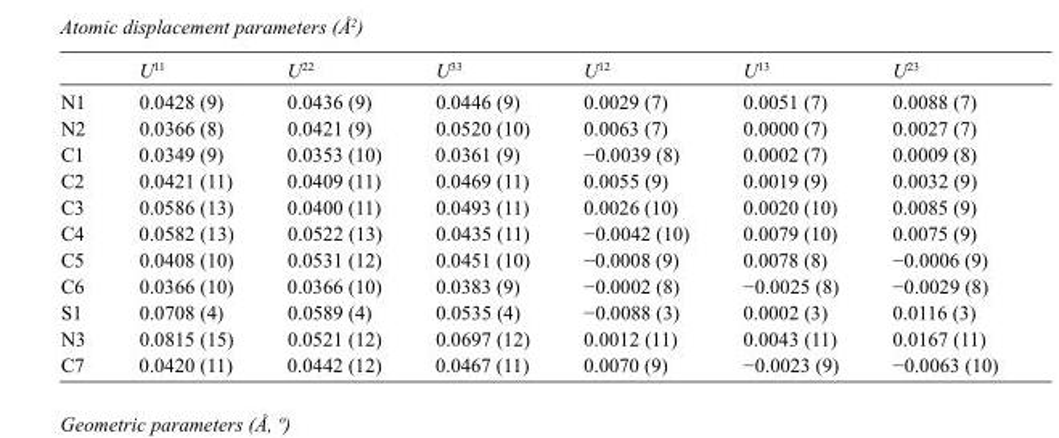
<table><thead><tr><td></td><td>U<sup>11</sup></td><td>U<sup>22</sup></td><td>U<sup>33</sup></td><td>U<sup>12</sup></td><td>U<sup>13</sup></td><td>U<sup>23</sup></td></tr></thead><tbody><tr><td>N1</td><td>0.0428 (9)</td><td>0.0436 (9)</td><td>0.0446 (9)</td><td>0.0029 (7)</td><td>0.0051 (7)</td><td>0.0088 (7)</td></tr><tr><td>N2</td><td>0.0366 (8)</td><td>0.0421 (9)</td><td>0.0520 (10)</td><td>0.0063 (7)</td><td>0.0000 (7)</td><td>0.0027 (7)</td></tr><tr><td>C1</td><td>0.0349 (9)</td><td>0.0353 (10)</td><td>0.0361 (9)</td><td>−0.0039 (8)</td><td>0.0002 (7)</td><td>0.0009 (8)</td></tr><tr><td>C2</td><td>0.0421 (11)</td><td>0.0409 (11)</td><td>0.0469 (11)</td><td>0.0055 (9)</td><td>0.0019 (9)</td><td>0.0032 (9)</td></tr><tr><td>C3</td><td>0.0586 (13)</td><td>0.0400 (11)</td><td>0.0493 (11)</td><td>0.0026 (10)</td><td>0.0020 (10)</td><td>0.0085 (9)</td></tr><tr><td>C4</td><td>0.0582 (13)</td><td>0.0522 (13)</td><td>0.0435 (11)</td><td>−0.0042 (10)</td><td>0.0079 (10)</td><td>0.0075 (9)</td></tr><tr><td>C5</td><td>0.0408 (10)</td><td>0.0531 (12)</td><td>0.0451 (10)</td><td>−0.0008 (9)</td><td>0.0078 (8)</td><td>−0.0006 (9)</td></tr><tr><td>C6</td><td>0.0366 (10)</td><td>0.0366 (10)</td><td>0.0383 (9)</td><td>−0.0002 (8)</td><td>−0.0025 (8)</td><td>−0.0029 (8)</td></tr><tr><td>S1</td><td>0.0708 (4)</td><td>0.0589 (4)</td><td>0.0535 (4)</td><td>−0.0088 (3)</td><td>0.0002 (3)</td><td>0.0116 (3)</td></tr><tr><td>N3</td><td>0.0815 (15)</td><td>0.0521 (12)</td><td>0.0697 (12)</td><td>0.0012 (11)</td><td>0.0043 (11)</td><td>0.0167 (11)</td></tr><tr><td>C7</td><td>0.0420 (11)</td><td>0.0442 (12)</td><td>0.0467 (11)</td><td>0.0070 (9)</td><td>−0.0023 (9)</td><td>−0.0063 (10)</td></tr></tbody></table>